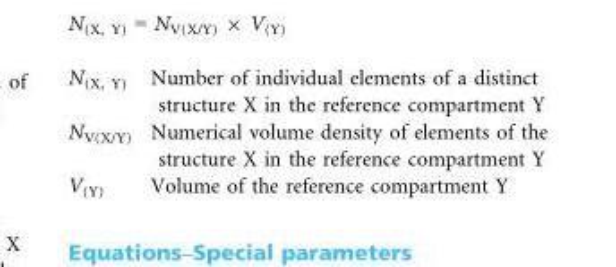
<table><tbody><tr><td>N<sub>(X, Y)</sub></td><td>Number of individual elements of a distinct structure X in the reference compartment Y</td></tr><tr><td>N<sub>V(X/Y)</sub></td><td>Numerical volume density of elements of the structure X in the reference compartment Y</td></tr><tr><td>V<sub>(Y)</sub></td><td>Volume of the reference compartment Y</td></tr></tbody></table>